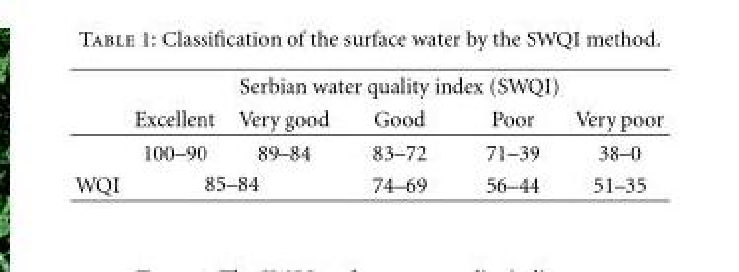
<table><thead><tr><td rowspan="2"></td><td colspan="5">Serbian water quality index (SWQI)</td></tr><tr><td>Excellent</td><td>Very good</td><td>Good</td><td>Poor</td><td>Very poor</td></tr></thead><tbody><tr><td></td><td>100–90</td><td>89–84</td><td>83–72</td><td>71–39</td><td>38–0</td></tr><tr><td>WQI</td><td colspan="2">85–84</td><td>74–69</td><td>56–44</td><td>51–35</td></tr></tbody></table>